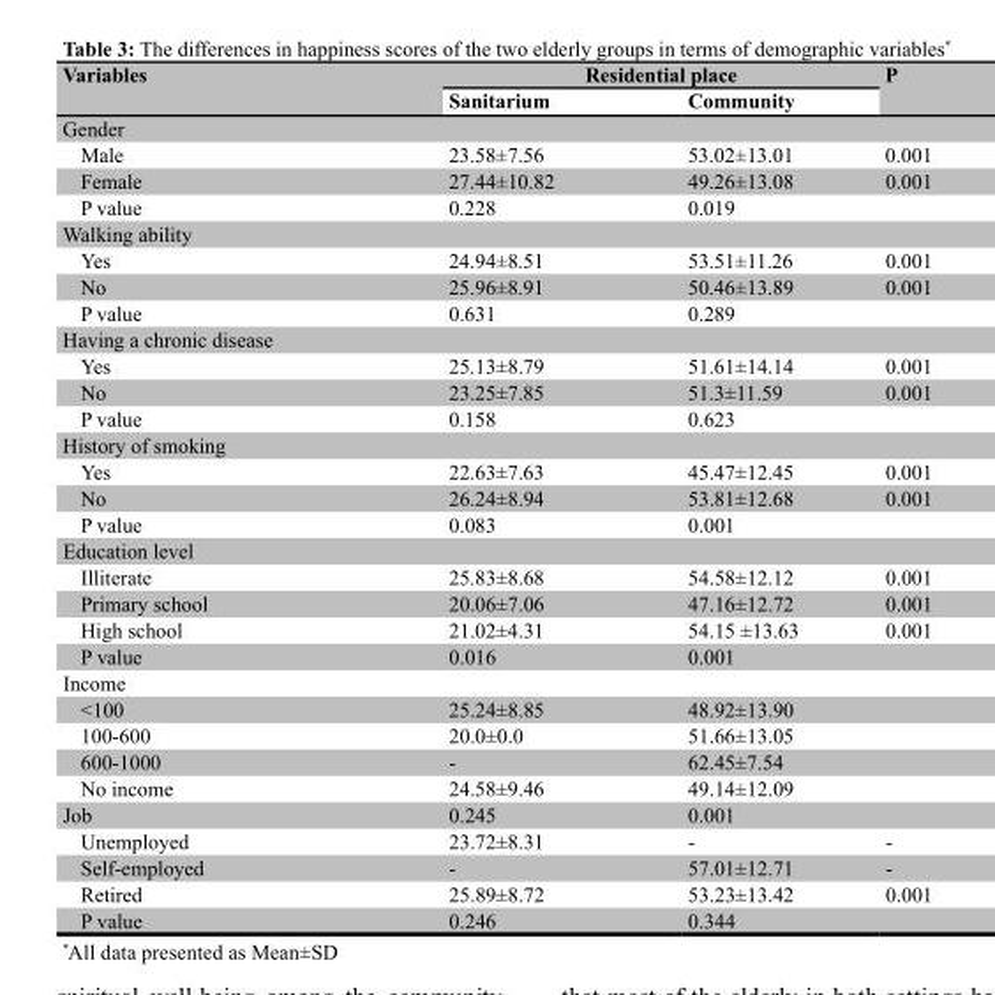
<table><thead><tr><td rowspan="2">Variables</td><td colspan="2">Residential place</td><td rowspan="2">P</td></tr><tr><td>Sanitarium</td><td>Community</td></tr></thead><tbody><tr><td colspan="4">Gender</td></tr><tr><td>Male</td><td>23.58±7.56</td><td>53.02±13.01</td><td>0.001</td></tr><tr><td>Female</td><td>27.44±10.82</td><td>49.26±13.08</td><td>0.001</td></tr><tr><td>P value</td><td>0.228</td><td>0.019</td><td></td></tr><tr><td colspan="4">Walking ability</td></tr><tr><td>Yes</td><td>24.94±8.51</td><td>53.51±11.26</td><td>0.001</td></tr><tr><td>No</td><td>25.96±8.91</td><td>50.46±13.89</td><td>0.001</td></tr><tr><td>P value</td><td>0.631</td><td>0.289</td><td></td></tr><tr><td colspan="4">Having a chronic disease</td></tr><tr><td>Yes</td><td>25.13±8.79</td><td>51.61±14.14</td><td>0.001</td></tr><tr><td>No</td><td>23.25±7.85</td><td>51.3±11.59</td><td>0.001</td></tr><tr><td>P value</td><td>0.158</td><td>0.623</td><td></td></tr><tr><td colspan="4">History of smoking</td></tr><tr><td>Yes</td><td>22.63±7.63</td><td>45.47±12.45</td><td>0.001</td></tr><tr><td>No</td><td>26.24±8.94</td><td>53.81±12.68</td><td>0.001</td></tr><tr><td>P value</td><td>0.083</td><td>0.001</td><td></td></tr><tr><td colspan="4">Education level</td></tr><tr><td>Illiterate</td><td>25.83±8.68</td><td>54.58±12.12</td><td>0.001</td></tr><tr><td>Primary school</td><td>20.06±7.06</td><td>47.16±12.72</td><td>0.001</td></tr><tr><td>High school</td><td>21.02±4.31</td><td>54.15 ±13.63</td><td>0.001</td></tr><tr><td>P value</td><td>0.016</td><td>0.001</td><td></td></tr><tr><td colspan="4">Income</td></tr><tr><td>&lt;100</td><td>25.24±8.85</td><td>48.92±13.90</td><td></td></tr><tr><td>100-600</td><td>20.0±0.0</td><td>51.66±13.05</td><td></td></tr><tr><td>600-1000</td><td>-</td><td>62.45±7.54</td><td></td></tr><tr><td>No income</td><td>24.58±9.46</td><td>49.14±12.09</td><td></td></tr><tr><td>Job</td><td>0.245</td><td>0.001</td><td></td></tr><tr><td>Unemployed</td><td>23.72±8.31</td><td>-</td><td>-</td></tr><tr><td>Self-employed</td><td>-</td><td>57.01±12.71</td><td>-</td></tr><tr><td>Retired</td><td>25.89±8.72</td><td>53.23±13.42</td><td>0.001</td></tr><tr><td>P value</td><td>0.246</td><td>0.344</td><td></td></tr></tbody></table>